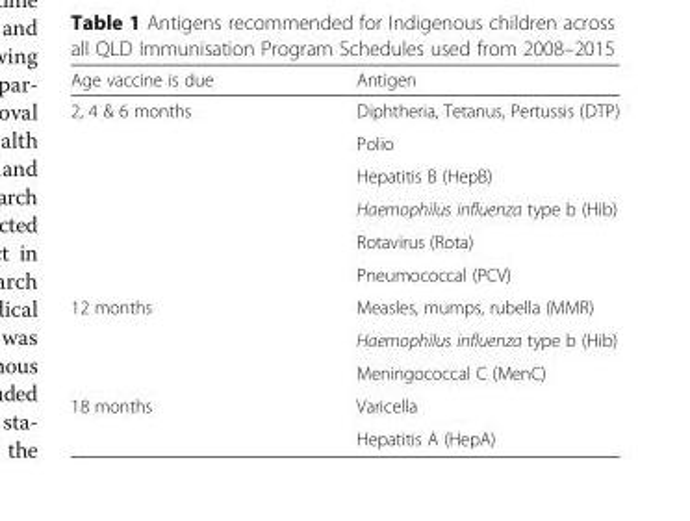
<table><thead><tr><td>Age vaccine is due</td><td>Antigen</td></tr></thead><tbody><tr><td rowspan="6">2, 4 &amp; 6 months</td><td>Diphtheria, Tetanus, Pertussis (DTP)</td></tr><tr><td>Polio</td></tr><tr><td>Hepatitis B (HepB)</td></tr><tr><td>Haemophilus influenza type b (Hib)</td></tr><tr><td>Rotavirus (Rota)</td></tr><tr><td>Pneumococcal (PCV)</td></tr><tr><td rowspan="3">12 months</td><td>Measles, mumps, rubella (MMR)</td></tr><tr><td>Haemophilus influenza type b (Hib)</td></tr><tr><td>Meningococcal C (MenC)</td></tr><tr><td rowspan="2">18 months</td><td>Varicella</td></tr><tr><td>Hepatitis A (HepA)</td></tr></tbody></table>